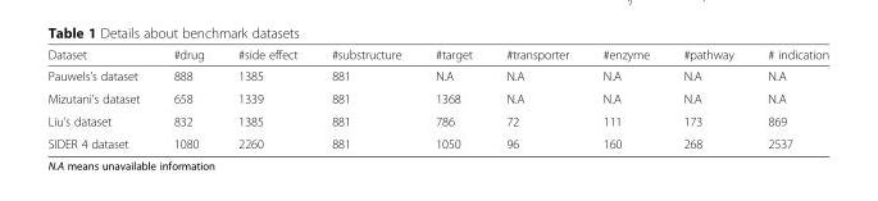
<table><thead><tr><td>Dataset</td><td>#drug</td><td>#side effect</td><td>#substructure</td><td>#target</td><td>#transporter</td><td>#enzyme</td><td>#pathway</td><td># indication</td></tr></thead><tbody><tr><td>Pauwels’s dataset</td><td>888</td><td>1385</td><td>881</td><td>N.A</td><td>N.A</td><td>N.A</td><td>N.A</td><td>N.A</td></tr><tr><td>Mizutani’s dataset</td><td>658</td><td>1339</td><td>881</td><td>1368</td><td>N.A</td><td>N.A</td><td>N.A</td><td>N.A</td></tr><tr><td>Liu’s dataset</td><td>832</td><td>1385</td><td>881</td><td>786</td><td>72</td><td>111</td><td>173</td><td>869</td></tr><tr><td>SIDER 4 dataset</td><td>1080</td><td>2260</td><td>881</td><td>1050</td><td>96</td><td>160</td><td>268</td><td>2537</td></tr></tbody></table>